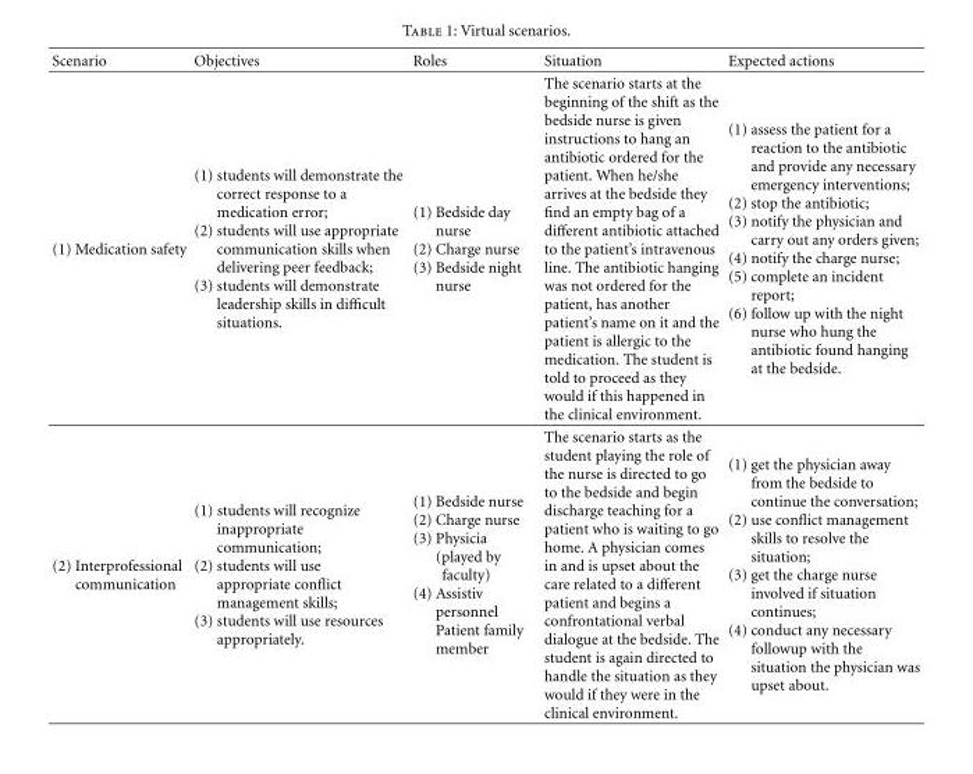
<table><thead><tr><td>Scenario</td><td>Objectives</td><td>Roles</td><td>Situation</td><td>Expected actions</td></tr></thead><tbody><tr><td>(1) Medication safety</td><td>(1) students will demonstrate the correct response to a medication error; (2) students will use appropriate communication skills when delivering peer feedback; (3) students will demonstrate leadership skills in difficult situations.</td><td>(1) Bedside day nurse (2) Charge nurse (3) Bedside night nurse</td><td>The scenario starts at the beginning of the shift as the bedside nurse is given instructions to hang an antibiotic ordered for the patient. When he/she arrives at the bedside they find an empty bag of a different antibiotic attached to the patient’s intravenous line. The antibiotic hanging was not ordered for the patient, has another patient’s name on it and the patient is allergic to the medication. The student is told to proceed as they would if this happened in the clinical environment.</td><td>(1) assess the patient for a reaction to the antibiotic and provide any necessary emergency interventions; (2) stop the antibiotic; (3) notify the physician and carry out any orders given; (4) notify the charge nurse; (5) complete an incident report; (6) follow up with the night nurse who hung the antibiotic found hanging at the bedside.</td></tr><tr><td>(2) Interprofessional communication</td><td>(1) students will recognize inappropriate communication; (2) students will use appropriate conflict management skills; (3) students will use resources appropriately.</td><td>(1) Bedside nurse (2) Charge nurse (3) Physicia (played by faculty) (4) Assistiv personnel Patient family member</td><td>The scenario starts as the student playing the role of the nurse is directed to go to the bedside and begin discharge teaching for a patient who is waiting to go home. A physician comes in and is upset about the care related to a different patient and begins a confrontational verbal dialogue at the bedside. The student is again directed to handle the situation as they would if they were in the clinical environment.</td><td>(1) get the physician away from the bedside to continue the conversation; (2) use conflict management skills to resolve the situation; (3) get the charge nurse involved if situation continues; (4) conduct any necessary followup with the situation the physician was upset about.</td></tr></tbody></table>